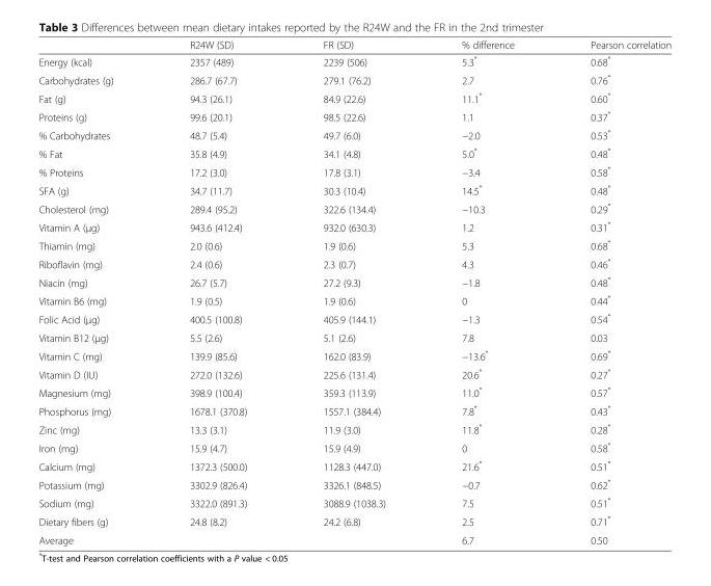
<table><thead><tr><td></td><td>R24W (SD)</td><td>FR (SD)</td><td>% difference</td><td>Pearson correlation</td></tr></thead><tbody><tr><td>Energy (kcal)</td><td>2357 (489)</td><td>2239 (506)</td><td>5.3*</td><td>0.68*</td></tr><tr><td>Carbohydrates (g)</td><td>286.7 (67.7)</td><td>279.1 (76.2)</td><td>2.7</td><td>0.76*</td></tr><tr><td>Fat (g)</td><td>94.3 (26.1)</td><td>84.9 (22.6)</td><td>11.1*</td><td>0.60*</td></tr><tr><td>Proteins (g)</td><td>99.6 (20.1)</td><td>98.5 (22.6)</td><td>1.1</td><td>0.37*</td></tr><tr><td>% Carbohydrates</td><td>48.7 (5.4)</td><td>49.7 (6.0)</td><td>−2.0</td><td>0.53*</td></tr><tr><td>% Fat</td><td>35.8 (4.9)</td><td>34.1 (4.8)</td><td>5.0*</td><td>0.48*</td></tr><tr><td>% Proteins</td><td>17.2 (3.0)</td><td>17.8 (3.1)</td><td>−3.4</td><td>0.58*</td></tr><tr><td>SFA (g)</td><td>34.7 (11.7)</td><td>30.3 (10.4)</td><td>14.5*</td><td>0.48*</td></tr><tr><td>Cholesterol (mg)</td><td>289.4 (95.2)</td><td>322.6 (134.4)</td><td>−10.3</td><td>0.29*</td></tr><tr><td>Vitamin A (μg)</td><td>943.6 (412.4)</td><td>932.0 (630.3)</td><td>1.2</td><td>0.31*</td></tr><tr><td>Thiamin (mg)</td><td>2.0 (0.6)</td><td>1.9 (0.6)</td><td>5.3</td><td>0.68*</td></tr><tr><td>Riboflavin (mg)</td><td>2.4 (0.6)</td><td>2.3 (0.7)</td><td>4.3</td><td>0.46*</td></tr><tr><td>Niacin (mg)</td><td>26.7 (5.7)</td><td>27.2 (9.3)</td><td>−1.8</td><td>0.48*</td></tr><tr><td>Vitamin B6 (mg)</td><td>1.9 (0.5)</td><td>1.9 (0.6)</td><td>0</td><td>0.44*</td></tr><tr><td>Folic Acid (μg)</td><td>400.5 (100.8)</td><td>405.9 (144.1)</td><td>−1.3</td><td>0.54*</td></tr><tr><td>Vitamin B12 (μg)</td><td>5.5 (2.6)</td><td>5.1 (2.6)</td><td>7.8</td><td>0.03</td></tr><tr><td>Vitamin C (mg)</td><td>139.9 (85.6)</td><td>162.0 (83.9)</td><td>−13.6*</td><td>0.69*</td></tr><tr><td>Vitamin D (IU)</td><td>272.0 (132.6)</td><td>225.6 (131.4)</td><td>20.6*</td><td>0.27*</td></tr><tr><td>Magnesium (mg)</td><td>398.9 (100.4)</td><td>359.3 (113.9)</td><td>11.0*</td><td>0.57*</td></tr><tr><td>Phosphorus (mg)</td><td>1678.1 (370.8)</td><td>1557.1 (384.4)</td><td>7.8*</td><td>0.43*</td></tr><tr><td>Zinc (mg)</td><td>13.3 (3.1)</td><td>11.9 (3.0)</td><td>11.8*</td><td>0.28*</td></tr><tr><td>Iron (mg)</td><td>15.9 (4.7)</td><td>15.9 (4.9)</td><td>0</td><td>0.58*</td></tr><tr><td>Calcium (mg)</td><td>1372.3 (500.0)</td><td>1128.3 (447.0)</td><td>21.6*</td><td>0.51*</td></tr><tr><td>Potassium (mg)</td><td>3302.9 (826.4)</td><td>3326.1 (848.5)</td><td>−0.7</td><td>0.62*</td></tr><tr><td>Sodium (mg)</td><td>3322.0 (891.3)</td><td>3088.9 (1038.3)</td><td>7.5</td><td>0.51*</td></tr><tr><td>Dietary fibers (g)</td><td>24.8 (8.2)</td><td>24.2 (6.8)</td><td>2.5</td><td>0.71*</td></tr><tr><td>Average</td><td></td><td></td><td>6.7</td><td>0.50</td></tr></tbody></table>